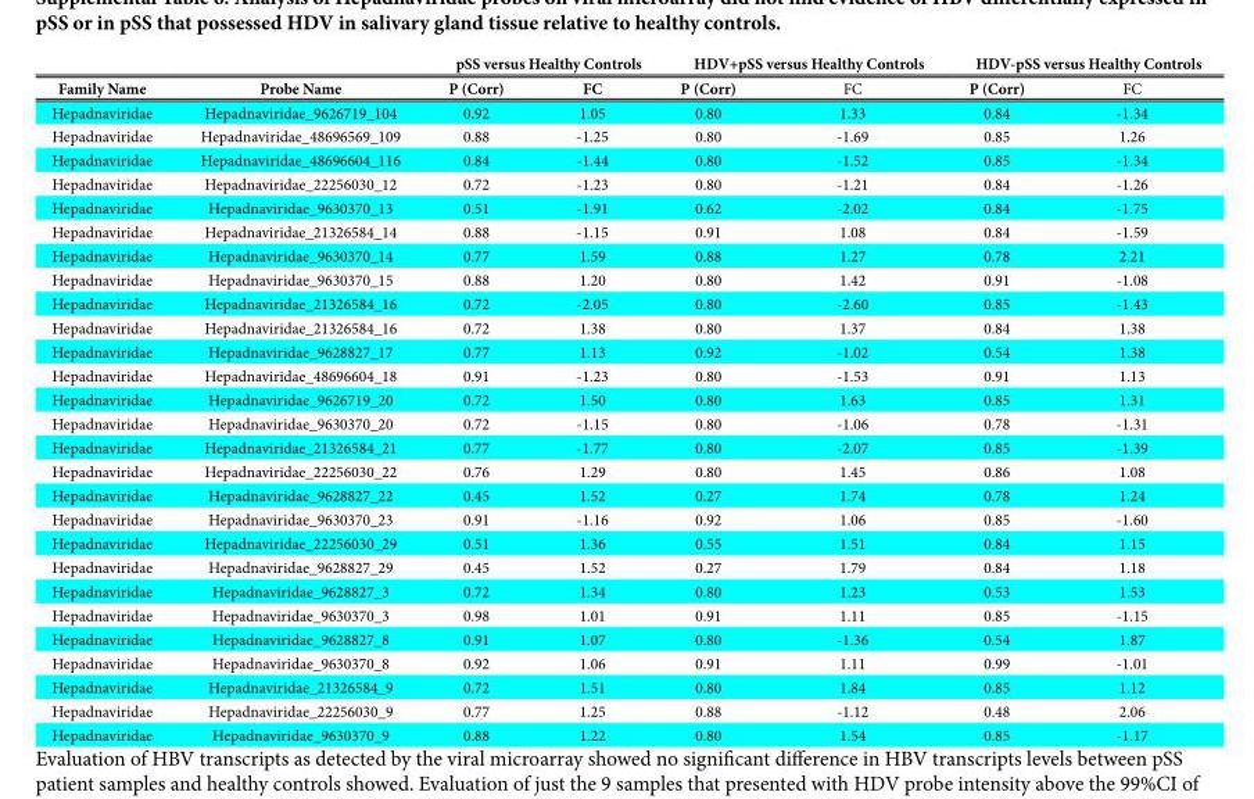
<table><thead><tr><td rowspan="2">Family Name</td><td rowspan="2">Probe Name</td><td colspan="2">pSS versus Healthy Controls</td><td colspan="2">HDV+pSS versus Healthy Controls</td><td colspan="2">HDV-pSS versus Healthy Controls</td></tr><tr><td>P (Corr)</td><td>FC</td><td>P (Corr)</td><td>FC</td><td>P (Corr)</td><td>FC</td></tr></thead><tbody><tr><td>Hepadnaviridae</td><td>Hepadnaviridae_9626719_104</td><td>0.92</td><td>1.05</td><td>0.80</td><td>1.33</td><td>0.84</td><td>-1.34</td></tr><tr><td>Hepadnaviridae</td><td>Hepadnaviridae_48696569_109</td><td>0.88</td><td>-1.25</td><td>0.80</td><td>-1.69</td><td>0.85</td><td>1.26</td></tr><tr><td>Hepadnaviridae</td><td>Hepadnaviridae_48696604_116</td><td>0.84</td><td>-1.44</td><td>0.80</td><td>-1.52</td><td>0.85</td><td>-1.34</td></tr><tr><td>Hepadnaviridae</td><td>Hepadnaviridae_22256030_12</td><td>0.72</td><td>-1.23</td><td>0.80</td><td>-1.21</td><td>0.84</td><td>-1.26</td></tr><tr><td>Hepadnaviridae</td><td>Hepadnaviridae_9630370_13</td><td>0.51</td><td>-1.91</td><td>0.62</td><td>-2.02</td><td>0.84</td><td>-1.75</td></tr><tr><td>Hepadnaviridae</td><td>Hepadnaviridae_21326584_14</td><td>0.88</td><td>-1.15</td><td>0.91</td><td>1.08</td><td>0.84</td><td>-1.59</td></tr><tr><td>Hepadnaviridae</td><td>Hepadnaviridae_9630370_14</td><td>0.77</td><td>1.59</td><td>0.88</td><td>1.27</td><td>0.78</td><td>2.21</td></tr><tr><td>Hepadnaviridae</td><td>Hepadnaviridae_9630370_15</td><td>0.88</td><td>1.20</td><td>0.80</td><td>1.42</td><td>0.91</td><td>-1.08</td></tr><tr><td>Hepadnaviridae</td><td>Hepadnaviridae_21326584_16</td><td>0.72</td><td>-2.05</td><td>0.80</td><td>-2.60</td><td>0.85</td><td>-1.43</td></tr><tr><td>Hepadnaviridae</td><td>Hepadnaviridae_21326584_16</td><td>0.72</td><td>1.38</td><td>0.80</td><td>1.37</td><td>0.84</td><td>1.38</td></tr><tr><td>Hepadnaviridae</td><td>Hepadnaviridae_9628827_17</td><td>0.77</td><td>1.13</td><td>0.92</td><td>-1.02</td><td>0.54</td><td>1.38</td></tr><tr><td>Hepadnaviridae</td><td>Hepadnaviridae_48696604_18</td><td>0.91</td><td>-1.23</td><td>0.80</td><td>-1.53</td><td>0.91</td><td>1.13</td></tr><tr><td>Hepadnaviridae</td><td>Hepadnaviridae_9626719_20</td><td>0.72</td><td>1.50</td><td>0.80</td><td>1.63</td><td>0.85</td><td>1.31</td></tr><tr><td>Hepadnaviridae</td><td>Hepadnaviridae_9630370_20</td><td>0.72</td><td>-1.15</td><td>0.80</td><td>-1.06</td><td>0.78</td><td>-1.31</td></tr><tr><td>Hepadnaviridae</td><td>Hepadnaviridae_21326584_21</td><td>0.77</td><td>-1.77</td><td>0.80</td><td>-2.07</td><td>0.85</td><td>-1.39</td></tr><tr><td>Hepadnaviridae</td><td>Hepadnaviridae_22256030_22</td><td>0.76</td><td>1.29</td><td>0.80</td><td>1.45</td><td>0.86</td><td>1.08</td></tr><tr><td>Hepadnaviridae</td><td>Hepadnaviridae_9628827_22</td><td>0.45</td><td>1.52</td><td>0.27</td><td>1.74</td><td>0.78</td><td>1.24</td></tr><tr><td>Hepadnaviridae</td><td>Hepadnaviridae_9630370_23</td><td>0.91</td><td>-1.16</td><td>0.92</td><td>1.06</td><td>0.85</td><td>-1.60</td></tr><tr><td>Hepadnaviridae</td><td>Hepadnaviridae_22256030_29</td><td>0.51</td><td>1.36</td><td>0.55</td><td>1.51</td><td>0.84</td><td>1.15</td></tr><tr><td>Hepadnaviridae</td><td>Hepadnaviridae_9628827_29</td><td>0.45</td><td>1.52</td><td>0.27</td><td>1.79</td><td>0.84</td><td>1.18</td></tr><tr><td>Hepadnaviridae</td><td>Hepadnaviridae_9628827_3</td><td>0.72</td><td>1.34</td><td>0.80</td><td>1.23</td><td>0.53</td><td>1.53</td></tr><tr><td>Hepadnaviridae</td><td>Hepadnaviridae_9630370_3</td><td>0.98</td><td>1.01</td><td>0.91</td><td>1.11</td><td>0.85</td><td>-1.15</td></tr><tr><td>Hepadnaviridae</td><td>Hepadnaviridae_9628827_8</td><td>0.91</td><td>1.07</td><td>0.80</td><td>-1.36</td><td>0.54</td><td>1.87</td></tr><tr><td>Hepadnaviridae</td><td>Hepadnaviridae_9630370_8</td><td>0.92</td><td>1.06</td><td>0.91</td><td>1.11</td><td>0.99</td><td>-1.01</td></tr><tr><td>Hepadnaviridae</td><td>Hepadnaviridae_21326584_9</td><td>0.72</td><td>1.51</td><td>0.80</td><td>1.84</td><td>0.85</td><td>1.12</td></tr><tr><td>Hepadnaviridae</td><td>Hepadnaviridae_22256030_9</td><td>0.77</td><td>1.25</td><td>0.88</td><td>-1.12</td><td>0.48</td><td>2.06</td></tr><tr><td>Hepadnaviridae</td><td>Hepadnaviridae_9630370_9</td><td>0.88</td><td>1.22</td><td>0.80</td><td>1.54</td><td>0.85</td><td>-1.17</td></tr></tbody></table>